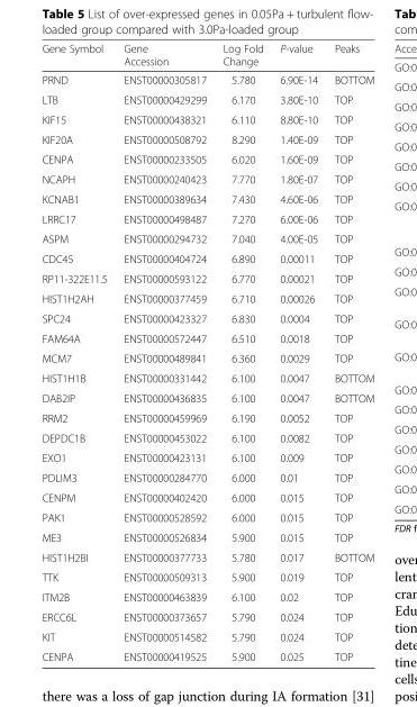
<table><thead><tr><td>Gene Symbol</td><td>Gene Accession</td><td>Log Fold Change</td><td>P-value</td><td>Peaks</td></tr></thead><tbody><tr><td>PRND</td><td>ENST00000305817</td><td>5.780</td><td>6.90E-14</td><td>BOTTOM</td></tr><tr><td>LTB</td><td>ENST00000429299</td><td>6.170</td><td>3.80E-10</td><td>TOP</td></tr><tr><td>KIF15</td><td>ENST00000438321</td><td>6.110</td><td>8.80E-10</td><td>TOP</td></tr><tr><td>KIF20A</td><td>ENST00000508792</td><td>8.290</td><td>1.40E-09</td><td>TOP</td></tr><tr><td>CENPA</td><td>ENST00000233505</td><td>6.020</td><td>1.60E-09</td><td>TOP</td></tr><tr><td>NCAPH</td><td>ENST00000240423</td><td>7.770</td><td>1.80E-07</td><td>TOP</td></tr><tr><td>KCNAB1</td><td>ENST00000389634</td><td>7.430</td><td>4.60E-06</td><td>TOP</td></tr><tr><td>LRRC17</td><td>ENST00000498487</td><td>7.270</td><td>6.00E-06</td><td>TOP</td></tr><tr><td>ASPM</td><td>ENST00000294732</td><td>7.040</td><td>4.00E-05</td><td>TOP</td></tr><tr><td>CDC45</td><td>ENST00000404724</td><td>6.890</td><td>0.00011</td><td>TOP</td></tr><tr><td>RP11-322E11.5</td><td>ENST00000593122</td><td>6.770</td><td>0.00021</td><td>TOP</td></tr><tr><td>HIST1H2AH</td><td>ENST00000377459</td><td>6.710</td><td>0.00026</td><td>TOP</td></tr><tr><td>SPC24</td><td>ENST00000423327</td><td>6.830</td><td>0.0004</td><td>TOP</td></tr><tr><td>FAM64A</td><td>ENST00000572447</td><td>6.510</td><td>0.0018</td><td>TOP</td></tr><tr><td>MCM7</td><td>ENST00000489841</td><td>6.360</td><td>0.0029</td><td>TOP</td></tr><tr><td>HIST1H1B</td><td>ENST00000331442</td><td>6.100</td><td>0.0047</td><td>BOTTOM</td></tr><tr><td>DAB2IP</td><td>ENST00000436835</td><td>6.100</td><td>0.0047</td><td>BOTTOM</td></tr><tr><td>RRM2</td><td>ENST00000459969</td><td>6.190</td><td>0.0052</td><td>TOP</td></tr><tr><td>DEPDC1B</td><td>ENST00000453022</td><td>6.100</td><td>0.0082</td><td>TOP</td></tr><tr><td>EXO1</td><td>ENST00000423131</td><td>6.100</td><td>0.009</td><td>TOP</td></tr><tr><td>PDLIM3</td><td>ENST00000284770</td><td>6.000</td><td>0.01</td><td>TOP</td></tr><tr><td>CENPM</td><td>ENST00000402420</td><td>6.000</td><td>0.015</td><td>TOP</td></tr><tr><td>PAK1</td><td>ENST00000528592</td><td>6.000</td><td>0.015</td><td>TOP</td></tr><tr><td>ME3</td><td>ENST00000526834</td><td>5.900</td><td>0.015</td><td>TOP</td></tr><tr><td>HIST1H2BI</td><td>ENST00000377733</td><td>5.780</td><td>0.017</td><td>BOTTOM</td></tr><tr><td>TTK</td><td>ENST00000509313</td><td>5.900</td><td>0.019</td><td>TOP</td></tr><tr><td>ITM2B</td><td>ENST00000463839</td><td>6.100</td><td>0.02</td><td>TOP</td></tr><tr><td>ERCC6L</td><td>ENST00000373657</td><td>5.790</td><td>0.024</td><td>TOP</td></tr><tr><td>KIT</td><td>ENST00000514582</td><td>5.790</td><td>0.024</td><td>TOP</td></tr><tr><td>CENPA</td><td>ENST00000419525</td><td>5.900</td><td>0.025</td><td>TOP</td></tr></tbody></table>